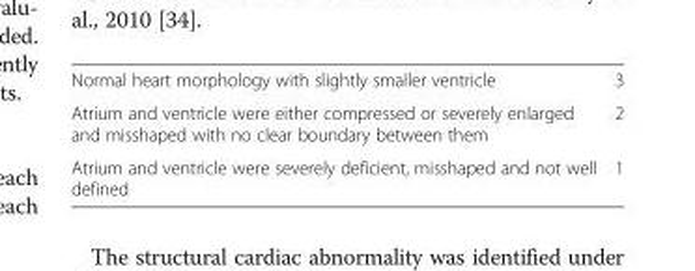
<table><tbody><tr><td>Normal heart morphology with slightly smaller ventricle</td><td>3</td></tr><tr><td>Atrium and ventricle were either compressed or severely enlarged and misshaped with no clear boundary between them</td><td>2</td></tr><tr><td>Atrium and ventricle were severely deficient, misshaped and not well defined</td><td>1</td></tr></tbody></table>